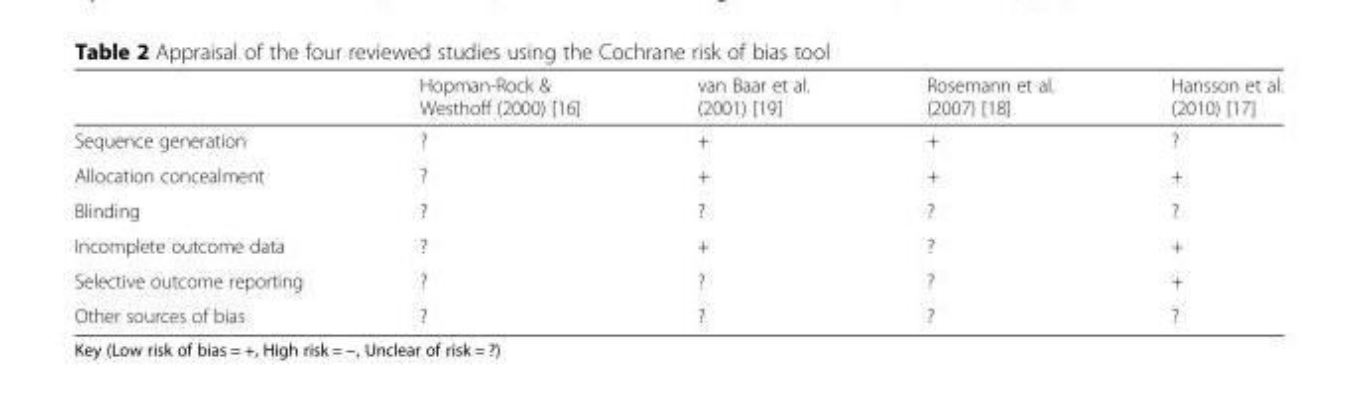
<table><thead><tr><td></td><td>Hopman-Rock &amp; Westhoff (2000) [16]</td><td>van Baar et al. (2001) [19]</td><td>Rosemann et al. (2007) [18]</td><td>Hansson et al. (2010) [17]</td></tr></thead><tbody><tr><td>Sequence generation</td><td>?</td><td>+</td><td>+</td><td>?</td></tr><tr><td>Allocation concealment</td><td>?</td><td>+</td><td>+</td><td>+</td></tr><tr><td>Blinding</td><td>?</td><td>?</td><td>?</td><td>?</td></tr><tr><td>Incomplete outcome data</td><td>?</td><td>+</td><td>?</td><td>+</td></tr><tr><td>Selective outcome reporting</td><td>?</td><td>?</td><td>?</td><td>+</td></tr><tr><td>Other sources of bias</td><td>?</td><td>?</td><td>?</td><td>?</td></tr></tbody></table>